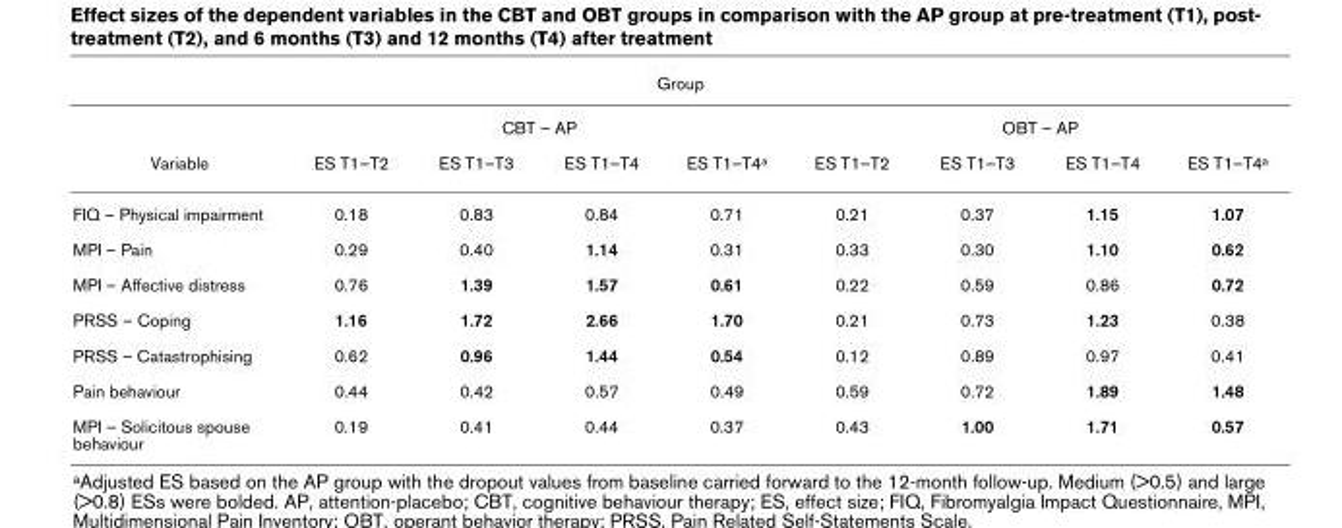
<table><thead><tr><td colspan="9">Group</td></tr><tr><td rowspan="2">Variable</td><td colspan="4">CBT – AP</td><td colspan="4">OBT – AP</td></tr><tr><td>ES T1–T2</td><td>ES T1–T3</td><td>ES T1–T4</td><td>ES T1–T4a</td><td>ES T1–T2</td><td>ES T1–T3</td><td>ES T1–T4</td><td>ES T1–T4a</td></tr></thead><tbody><tr><td>FIQ – Physical impairment</td><td>0.18</td><td>0.83</td><td>0.84</td><td>0.71</td><td>0.21</td><td>0.37</td><td>1.15</td><td>1.07</td></tr><tr><td>MPI – Pain</td><td>0.29</td><td>0.40</td><td>1.14</td><td>0.31</td><td>0.33</td><td>0.30</td><td>1.10</td><td>0.62</td></tr><tr><td>MPI – Affective distress</td><td>0.76</td><td>1.39</td><td>1.57</td><td>0.61</td><td>0.22</td><td>0.59</td><td>0.86</td><td>0.72</td></tr><tr><td>PRSS – Coping</td><td>1.16</td><td>1.72</td><td>2.66</td><td>1.70</td><td>0.21</td><td>0.73</td><td>1.23</td><td>0.38</td></tr><tr><td>PRSS – Catastrophising</td><td>0.62</td><td>0.96</td><td>1.44</td><td>0.54</td><td>0.12</td><td>0.89</td><td>0.97</td><td>0.41</td></tr><tr><td>Pain behaviour</td><td>0.44</td><td>0.42</td><td>0.57</td><td>0.49</td><td>0.59</td><td>0.72</td><td>1.89</td><td>1.48</td></tr><tr><td>MPI – Solicitous spouse behaviour</td><td>0.19</td><td>0.41</td><td>0.44</td><td>0.37</td><td>0.43</td><td>1.00</td><td>1.71</td><td>0.57</td></tr></tbody></table>